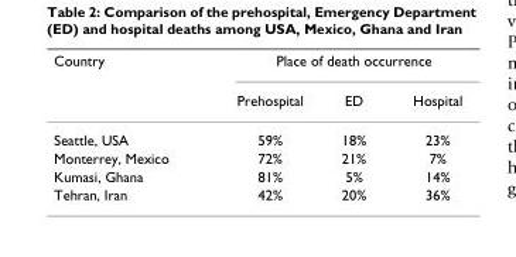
<table><thead><tr><td rowspan="2">Country</td><td colspan="3">Place of death occurrence</td></tr><tr><td>Prehospital</td><td>ED</td><td>Hospital</td></tr></thead><tbody><tr><td>Seattle, USA</td><td>59%</td><td>18%</td><td>23%</td></tr><tr><td>Monterrey, Mexico</td><td>72%</td><td>21%</td><td>7%</td></tr><tr><td>Kumasi, Ghana</td><td>81%</td><td>5%</td><td>14%</td></tr><tr><td>Tehran, Iran</td><td>42%</td><td>20%</td><td>36%</td></tr></tbody></table>